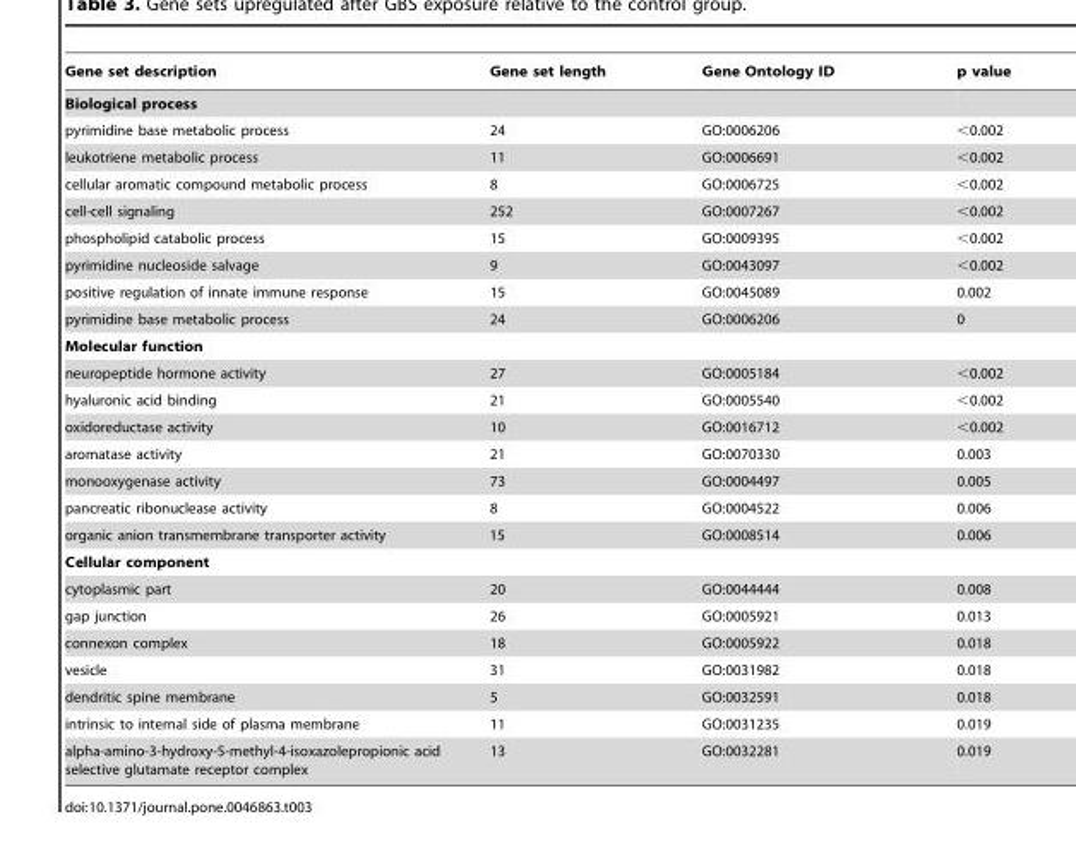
<table><thead><tr><td>Gene set description</td><td>Gene set length</td><td>Gene Ontology ID</td><td>p value</td></tr></thead><tbody><tr><td colspan="4">Biological process</td></tr><tr><td>pyrimidine base metabolic process</td><td>24</td><td>GO:0006206</td><td>&lt;0.002</td></tr><tr><td>leukotriene metabolic process</td><td>11</td><td>GO:0006691</td><td>&lt;0.002</td></tr><tr><td>cellular aromatic compound metabolic process</td><td>8</td><td>GO:0006725</td><td>&lt;0.002</td></tr><tr><td>cell-cell signaling</td><td>252</td><td>GO:0007267</td><td>&lt;0.002</td></tr><tr><td>phospholipid catabolic process</td><td>15</td><td>GO:0009395</td><td>&lt;0.002</td></tr><tr><td>pyrimidine nucleoside salvage</td><td>9</td><td>GO:0043097</td><td>&lt;0.002</td></tr><tr><td>positive regulation of innate immune response</td><td>15</td><td>GO:0045089</td><td>0.002</td></tr><tr><td>pyrimidine base metabolic process</td><td>24</td><td>GO:0006206</td><td>0</td></tr><tr><td colspan="4">Molecular function</td></tr><tr><td>neuropeptide hormone activity</td><td>27</td><td>GO:0005184</td><td>&lt;0.002</td></tr><tr><td>hyaluronic acid binding</td><td>21</td><td>GO:0005540</td><td>&lt;0.002</td></tr><tr><td>oxidoreductase activity</td><td>10</td><td>GO:0016712</td><td>&lt;0.002</td></tr><tr><td>aromatase activity</td><td>21</td><td>GO:0070330</td><td>0.003</td></tr><tr><td>monooxygenase activity</td><td>73</td><td>GO:0004497</td><td>0.005</td></tr><tr><td>pancreatic ribonuclease activity</td><td>8</td><td>GO:0004522</td><td>0.006</td></tr><tr><td>organic anion transmembrane transporter activity</td><td>15</td><td>GO:0008514</td><td>0.006</td></tr><tr><td colspan="4">Cellular component</td></tr><tr><td>cytoplasmic part</td><td>20</td><td>GO:0044444</td><td>0.008</td></tr><tr><td>gap junction</td><td>26</td><td>GO:0005921</td><td>0.013</td></tr><tr><td>connexon complex</td><td>18</td><td>GO:0005922</td><td>0.018</td></tr><tr><td>vesicle</td><td>31</td><td>GO:0031982</td><td>0.018</td></tr><tr><td>dendritic spine membrane</td><td>5</td><td>GO:0032591</td><td>0.018</td></tr><tr><td>intrinsic to internal side of plasma membrane</td><td>11</td><td>GO:0031235</td><td>0.019</td></tr><tr><td>alpha-amino-3-hydroxy-5-methyl-4-isoxazolepropionic acid selective glutamate receptor complex</td><td>13</td><td>GO:0032281</td><td>0.019</td></tr></tbody></table>